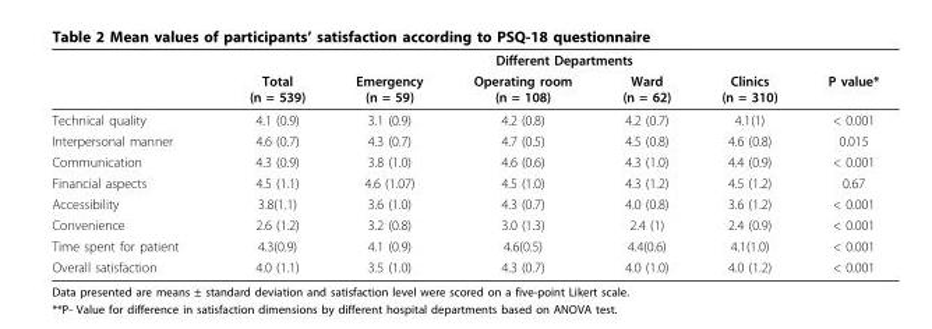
<table><thead><tr><td rowspan="2"></td><td colspan="6">Different Departments</td></tr><tr><td>Total (n = 539)</td><td>Emergency (n = 59)</td><td>Operating room (n = 108)</td><td>Ward (n = 62)</td><td>Clinics (n = 310)</td><td>P value*</td></tr></thead><tbody><tr><td>Technical quality</td><td>4.1 (0.9)</td><td>3.1 (0.9)</td><td>4.2 (0.8)</td><td>4.2 (0.7)</td><td>4.1(1)</td><td>&lt; 0.001</td></tr><tr><td>Interpersonal manner</td><td>4.6 (0.7)</td><td>4.3 (0.7)</td><td>4.7 (0.5)</td><td>4.5 (0.8)</td><td>4.6 (0.8)</td><td>0.015</td></tr><tr><td>Communication</td><td>4.3 (0.9)</td><td>3.8 (1.0)</td><td>4.6 (0.6)</td><td>4.3 (1.0)</td><td>4.4 (0.9)</td><td>&lt; 0.001</td></tr><tr><td>Financial aspects</td><td>4.5 (1.1)</td><td>4.6 (1.07)</td><td>4.5 (1.0)</td><td>4.3 (1.2)</td><td>4.5 (1.2)</td><td>0.67</td></tr><tr><td>Accessibility</td><td>3.8(1.1)</td><td>3.6 (1.0)</td><td>4.3 (0.7)</td><td>4.0 (0.8)</td><td>3.6 (1.2)</td><td>&lt; 0.001</td></tr><tr><td>Convenience</td><td>2.6 (1.2)</td><td>3.2 (0.8)</td><td>3.0 (1.3)</td><td>2.4 (1)</td><td>2.4 (0.9)</td><td>&lt; 0.001</td></tr><tr><td>Time spent for patient</td><td>4.3(0.9)</td><td>4.1 (0.9)</td><td>4.6(0.5)</td><td>4.4(0.6)</td><td>4.1(1.0)</td><td>&lt; 0.001</td></tr><tr><td>Overall satisfaction</td><td>4.0 (1.1)</td><td>3.5 (1.0)</td><td>4.3 (0.7)</td><td>4.0 (1.0)</td><td>4.0 (1.2)</td><td>&lt; 0.001</td></tr></tbody></table>